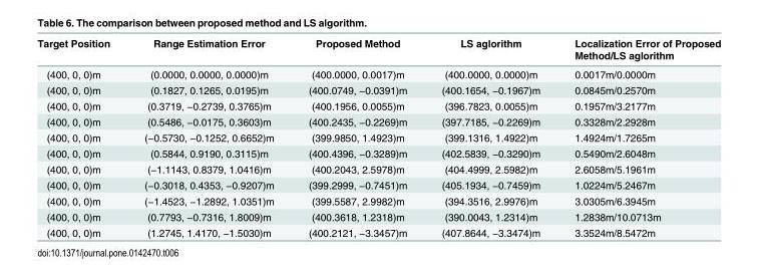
<table><thead><tr><td>Target Position</td><td>Range Estimation Error</td><td>Proposed Method</td><td>LS aglorithm</td><td>Localization Error of Proposed Method/LS aglorithm</td></tr></thead><tbody><tr><td>(400, 0, 0)m</td><td>(0.0000, 0.0000, 0.0000)m</td><td>(400.0000, 0.0017)m</td><td>(400.0000, 0.0000)m</td><td>0.0017m/0.0000m</td></tr><tr><td>(400, 0, 0)m</td><td>(0.1827, 0.1265, 0.0195)m</td><td>(400.0749, −0.0391)m</td><td>(400.1654, −0.1967)m</td><td>0.0845m/0.2570m</td></tr><tr><td>(400, 0, 0)m</td><td>(0.3719, −0.2739, 0.3765)m</td><td>(400.1956, 0.0055)m</td><td>(396.7823, 0.0055)m</td><td>0.1957m/3.2177m</td></tr><tr><td>(400, 0, 0)m</td><td>(0.5486, −0.0175, 0.3603)m</td><td>(400.2435, −0.2269)m</td><td>(397.7185, −0.2269)m</td><td>0.3328m/2.2928m</td></tr><tr><td>(400, 0, 0)m</td><td>(−0.5730, −0.1252, 0.6652)m</td><td>(399.9850, 1.4923)m</td><td>(399.1316, 1.4922)m</td><td>1.4924m/1.7265m</td></tr><tr><td>(400, 0, 0)m</td><td>(0.5844, 0.9190, 0.3115)m</td><td>(400.4396, −0.3289)m</td><td>(402.5839, −0.3290)m</td><td>0.5490m/2.6048m</td></tr><tr><td>(400, 0, 0)m</td><td>(−1.1143, 0.8379, 1.0416)m</td><td>(400.2043, 2.5978)m</td><td>(404.4999, 2.5982)m</td><td>2.6058m/5.1961m</td></tr><tr><td>(400, 0, 0)m</td><td>(−0.3018, 0.4353, −0.9207)m</td><td>(399.2999, −0.7451)m</td><td>(405.1934, −0.7459)m</td><td>1.0224m/5.2467m</td></tr><tr><td>(400, 0, 0)m</td><td>(−1.4523, −1.2892, 1.0351)m</td><td>(399.5587, 2.9982)m</td><td>(394.3516, 2.9976)m</td><td>3.0305m/6.3945m</td></tr><tr><td>(400, 0, 0)m</td><td>(0.7793, −0.7316, 1.8009)m</td><td>(400.3618, 1.2318)m</td><td>(390.0043, 1.2314)m</td><td>1.2838m/10.0713m</td></tr><tr><td>(400, 0, 0)m</td><td>(1.2745, 1.4170, −1.5030)m</td><td>(400.2121, −3.3457)m</td><td>(407.8644, −3.3474)m</td><td>3.3524m/8.5472m</td></tr></tbody></table>